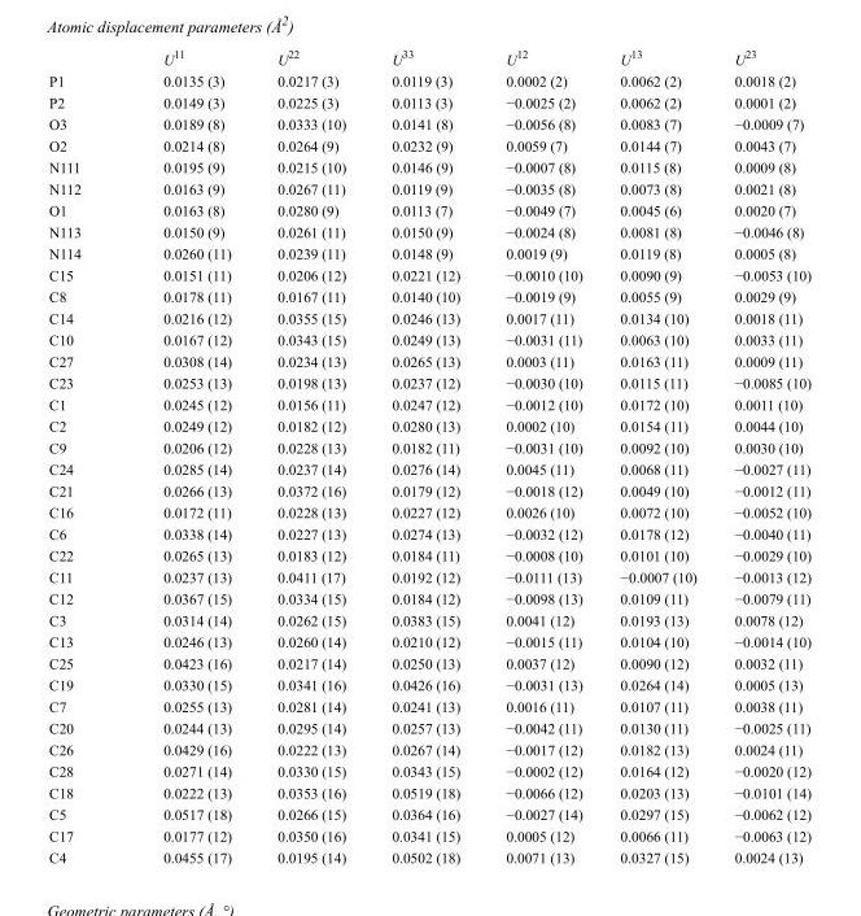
<table><thead><tr><td></td><td>U<sup>11</sup></td><td>U<sup>22</sup></td><td>U<sup>33</sup></td><td>U<sup>12</sup></td><td>U<sup>13</sup></td><td>U<sup>23</sup></td></tr></thead><tbody><tr><td>P1</td><td>0.0135 (3)</td><td>0.0217 (3)</td><td>0.0119 (3)</td><td>0.0002 (2)</td><td>0.0062 (2)</td><td>0.0018 (2)</td></tr><tr><td>P2</td><td>0.0149 (3)</td><td>0.0225 (3)</td><td>0.0113 (3)</td><td>−0.0025 (2)</td><td>0.0062 (2)</td><td>0.0001 (2)</td></tr><tr><td>O3</td><td>0.0189 (8)</td><td>0.0333 (10)</td><td>0.0141 (8)</td><td>−0.0056 (8)</td><td>0.0083 (7)</td><td>−0.0009 (7)</td></tr><tr><td>O2</td><td>0.0214 (8)</td><td>0.0264 (9)</td><td>0.0232 (9)</td><td>0.0059 (7)</td><td>0.0144 (7)</td><td>0.0043 (7)</td></tr><tr><td>N111</td><td>0.0195 (9)</td><td>0.0215 (10)</td><td>0.0146 (9)</td><td>−0.0007 (8)</td><td>0.0115 (8)</td><td>0.0009 (8)</td></tr><tr><td>N112</td><td>0.0163 (9)</td><td>0.0267 (11)</td><td>0.0119 (9)</td><td>−0.0035 (8)</td><td>0.0073 (8)</td><td>0.0021 (8)</td></tr><tr><td>O1</td><td>0.0163 (8)</td><td>0.0280 (9)</td><td>0.0113 (7)</td><td>−0.0049 (7)</td><td>0.0045 (6)</td><td>0.0020 (7)</td></tr><tr><td>N113</td><td>0.0150 (9)</td><td>0.0261 (11)</td><td>0.0150 (9)</td><td>−0.0024 (8)</td><td>0.0081 (8)</td><td>−0.0046 (8)</td></tr><tr><td>N114</td><td>0.0260 (11)</td><td>0.0239 (11)</td><td>0.0148 (9)</td><td>0.0019 (9)</td><td>0.0119 (8)</td><td>0.0005 (8)</td></tr><tr><td>C15</td><td>0.0151 (11)</td><td>0.0206 (12)</td><td>0.0221 (12)</td><td>−0.0010 (10)</td><td>0.0090 (9)</td><td>−0.0053 (10)</td></tr><tr><td>C8</td><td>0.0178 (11)</td><td>0.0167 (11)</td><td>0.0140 (10)</td><td>−0.0019 (9)</td><td>0.0055 (9)</td><td>0.0029 (9)</td></tr><tr><td>C14</td><td>0.0216 (12)</td><td>0.0355 (15)</td><td>0.0246 (13)</td><td>0.0017 (11)</td><td>0.0134 (10)</td><td>0.0018 (11)</td></tr><tr><td>C10</td><td>0.0167 (12)</td><td>0.0343 (15)</td><td>0.0249 (13)</td><td>−0.0031 (11)</td><td>0.0063 (10)</td><td>0.0033 (11)</td></tr><tr><td>C27</td><td>0.0308 (14)</td><td>0.0234 (13)</td><td>0.0265 (13)</td><td>0.0003 (11)</td><td>0.0163 (11)</td><td>0.0009 (11)</td></tr><tr><td>C23</td><td>0.0253 (13)</td><td>0.0198 (13)</td><td>0.0237 (12)</td><td>−0.0030 (10)</td><td>0.0115 (11)</td><td>−0.0085 (10)</td></tr><tr><td>C1</td><td>0.0245 (12)</td><td>0.0156 (11)</td><td>0.0247 (12)</td><td>−0.0012 (10)</td><td>0.0172 (10)</td><td>0.0011 (10)</td></tr><tr><td>C2</td><td>0.0249 (12)</td><td>0.0182 (12)</td><td>0.0280 (13)</td><td>0.0002 (10)</td><td>0.0154 (11)</td><td>0.0044 (10)</td></tr><tr><td>C9</td><td>0.0206 (12)</td><td>0.0228 (13)</td><td>0.0182 (11)</td><td>−0.0031 (10)</td><td>0.0092 (10)</td><td>0.0030 (10)</td></tr><tr><td>C24</td><td>0.0285 (14)</td><td>0.0237 (14)</td><td>0.0276 (14)</td><td>0.0045 (11)</td><td>0.0068 (11)</td><td>−0.0027 (11)</td></tr><tr><td>C21</td><td>0.0266 (13)</td><td>0.0372 (16)</td><td>0.0179 (12)</td><td>−0.0018 (12)</td><td>0.0049 (10)</td><td>−0.0012 (11)</td></tr><tr><td>C16</td><td>0.0172 (11)</td><td>0.0228 (13)</td><td>0.0227 (12)</td><td>0.0026 (10)</td><td>0.0072 (10)</td><td>−0.0052 (10)</td></tr><tr><td>C6</td><td>0.0338 (14)</td><td>0.0227 (13)</td><td>0.0274 (13)</td><td>−0.0032 (12)</td><td>0.0178 (12)</td><td>−0.0040 (11)</td></tr><tr><td>C22</td><td>0.0265 (13)</td><td>0.0183 (12)</td><td>0.0184 (11)</td><td>−0.0008 (10)</td><td>0.0101 (10)</td><td>−0.0029 (10)</td></tr><tr><td>C11</td><td>0.0237 (13)</td><td>0.0411 (17)</td><td>0.0192 (12)</td><td>−0.0111 (13)</td><td>−0.0007 (10)</td><td>−0.0013 (12)</td></tr><tr><td>C12</td><td>0.0367 (15)</td><td>0.0334 (15)</td><td>0.0184 (12)</td><td>−0.0098 (13)</td><td>0.0109 (11)</td><td>−0.0079 (11)</td></tr><tr><td>C3</td><td>0.0314 (14)</td><td>0.0262 (15)</td><td>0.0383 (15)</td><td>0.0041 (12)</td><td>0.0193 (13)</td><td>0.0078 (12)</td></tr><tr><td>C13</td><td>0.0246 (13)</td><td>0.0260 (14)</td><td>0.0210 (12)</td><td>−0.0015 (11)</td><td>0.0104 (10)</td><td>−0.0014 (10)</td></tr><tr><td>C25</td><td>0.0423 (16)</td><td>0.0217 (14)</td><td>0.0250 (13)</td><td>0.0037 (12)</td><td>0.0090 (12)</td><td>0.0032 (11)</td></tr><tr><td>C19</td><td>0.0330 (15)</td><td>0.0341 (16)</td><td>0.0426 (16)</td><td>−0.0031 (13)</td><td>0.0264 (14)</td><td>0.0005 (13)</td></tr><tr><td>C7</td><td>0.0255 (13)</td><td>0.0281 (14)</td><td>0.0241 (13)</td><td>0.0016 (11)</td><td>0.0107 (11)</td><td>0.0038 (11)</td></tr><tr><td>C20</td><td>0.0244 (13)</td><td>0.0295 (14)</td><td>0.0257 (13)</td><td>−0.0042 (11)</td><td>0.0130 (11)</td><td>−0.0025 (11)</td></tr><tr><td>C26</td><td>0.0429 (16)</td><td>0.0222 (13)</td><td>0.0267 (14)</td><td>−0.0017 (12)</td><td>0.0182 (13)</td><td>0.0024 (11)</td></tr><tr><td>C28</td><td>0.0271 (14)</td><td>0.0330 (15)</td><td>0.0343 (15)</td><td>−0.0002 (12)</td><td>0.0164 (12)</td><td>−0.0020 (12)</td></tr><tr><td>C18</td><td>0.0222 (13)</td><td>0.0353 (16)</td><td>0.0519 (18)</td><td>−0.0066 (12)</td><td>0.0203 (13)</td><td>−0.0101 (14)</td></tr><tr><td>C5</td><td>0.0517 (18)</td><td>0.0266 (15)</td><td>0.0364 (16)</td><td>−0.0027 (14)</td><td>0.0297 (15)</td><td>−0.0062 (12)</td></tr><tr><td>C17</td><td>0.0177 (12)</td><td>0.0350 (16)</td><td>0.0341 (15)</td><td>0.0005 (12)</td><td>0.0066 (11)</td><td>−0.0063 (12)</td></tr><tr><td>C4</td><td>0.0455 (17)</td><td>0.0195 (14)</td><td>0.0502 (18)</td><td>0.0071 (13)</td><td>0.0327 (15)</td><td>0.0024 (13)</td></tr></tbody></table>